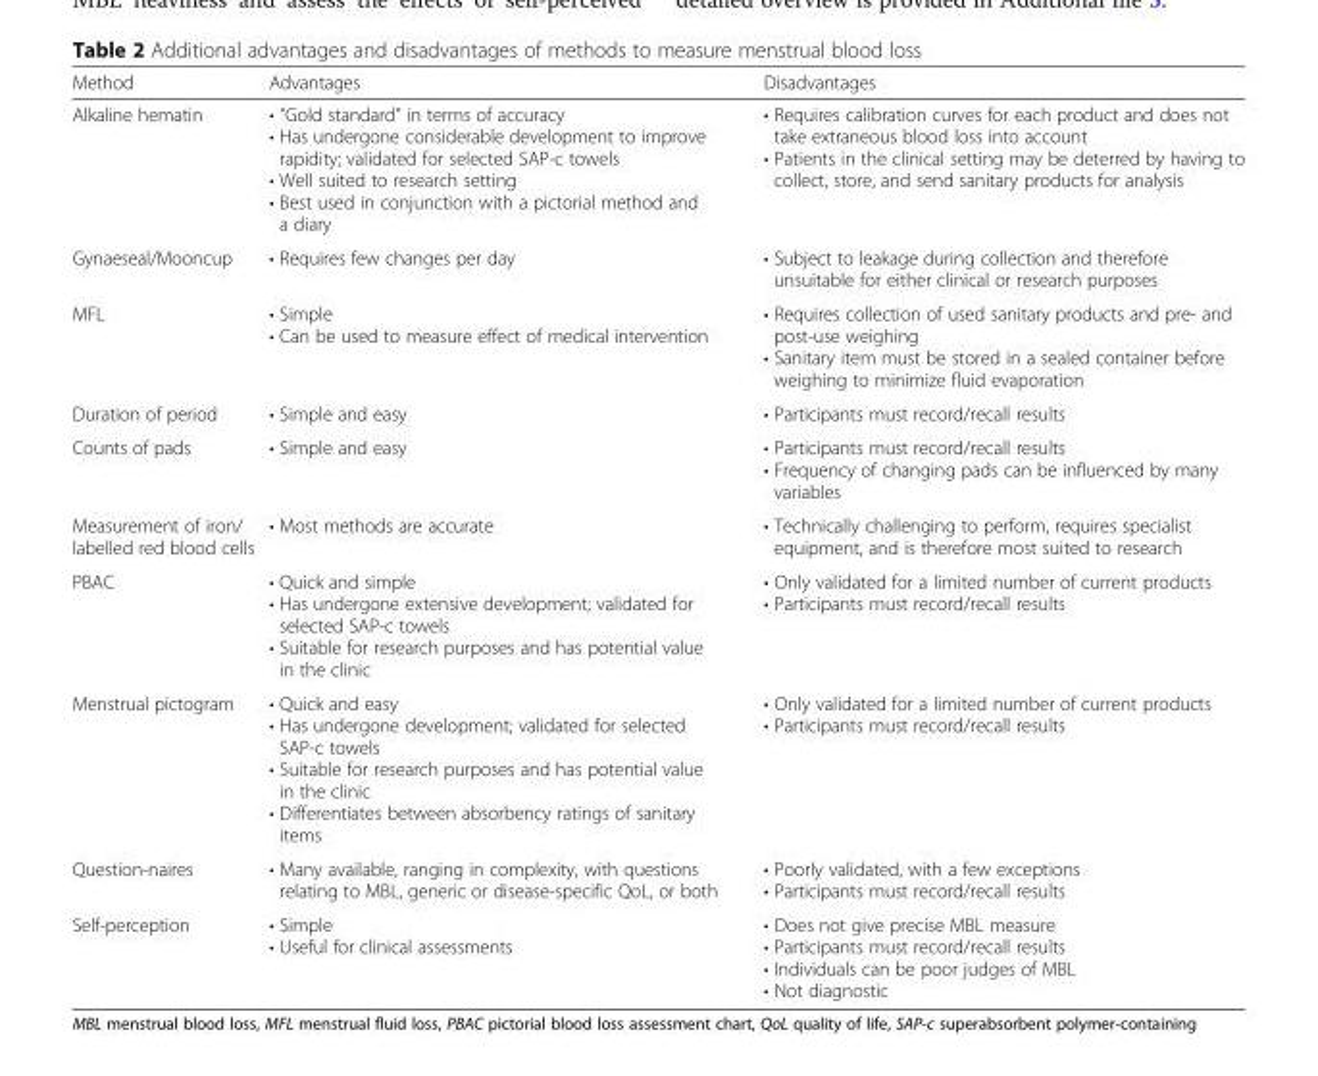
<table><thead><tr><td>Method</td><td>Advantages</td><td>Disadvantages</td></tr></thead><tbody><tr><td>Alkaline hematin</td><td>• “Gold standard” in terms of accuracy • Has undergone considerable development to improve rapidity; validated for selected SAP-c towels • Well suited to research setting • Best used in conjunction with a pictorial method and a diary</td><td>• Requires calibration curves for each product and does not take extraneous blood loss into account • Patients in the clinical setting may be deterred by having to collect, store, and send sanitary products for analysis</td></tr><tr><td>Gynaeseal/Mooncup</td><td>• Requires few changes per day</td><td>• Subject to leakage during collection and therefore unsuitable for either clinical or research purposes</td></tr><tr><td>MFL</td><td>• Simple • Can be used to measure effect of medical intervention</td><td>• Requires collection of used sanitary products and pre- and post-use weighing • Sanitary item must be stored in a sealed container before weighing to minimize fluid evaporation</td></tr><tr><td>Duration of period</td><td>• Simple and easy</td><td>• Participants must record/recall results</td></tr><tr><td>Counts of pads</td><td>• Simple and easy</td><td>• Participants must record/recall results • Frequency of changing pads can be influenced by many variables</td></tr><tr><td>Measurement of iron/ labelled red blood cells</td><td>• Most methods are accurate</td><td>• Technically challenging to perform, requires specialist equipment, and is therefore most suited to research</td></tr><tr><td>PBAC</td><td>• Quick and simple • Has undergone extensive development; validated for selected SAP-c towels • Suitable for research purposes and has potential value in the clinic</td><td>• Only validated for a limited number of current products • Participants must record/recall results</td></tr><tr><td>Menstrual pictogram</td><td>• Quick and easy • Has undergone development; validated for selected SAP-c towels • Suitable for research purposes and has potential value in the clinic • Differentiates between absorbency ratings of sanitary items</td><td>• Only validated for a limited number of current products • Participants must record/recall results</td></tr><tr><td>Question-naires</td><td>• Many available, ranging in complexity, with questions relating to MBL, generic or disease-specific QoL, or both</td><td>• Poorly validated, with a few exceptions • Participants must record/recall results</td></tr><tr><td>Self-perception</td><td>• Simple • Useful for clinical assessments</td><td>• Does not give precise MBL measure • Participants must record/recall results • Individuals can be poor judges of MBL • Not diagnostic</td></tr></tbody></table>